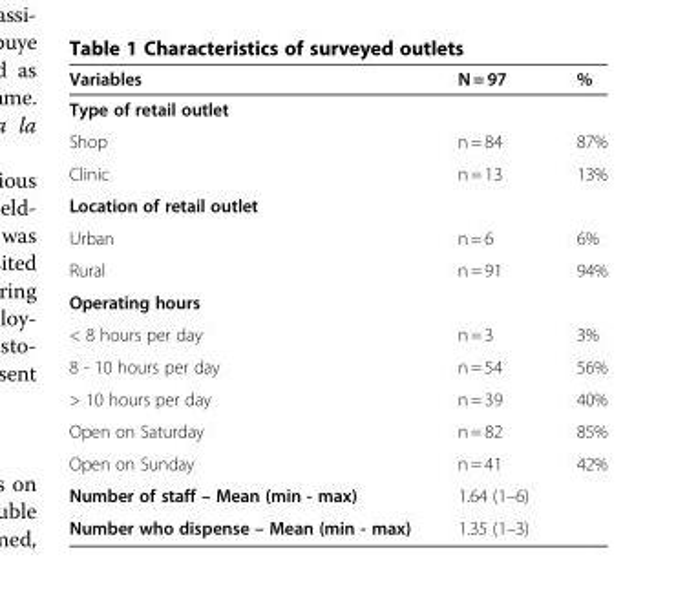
<table><thead><tr><td>Variables</td><td>N = 97</td><td>%</td></tr></thead><tbody><tr><td colspan="3">Type of retail outlet</td></tr><tr><td>Shop</td><td>n = 84</td><td>87%</td></tr><tr><td>Clinic</td><td>n = 13</td><td>13%</td></tr><tr><td colspan="3">Location of retail outlet</td></tr><tr><td>Urban</td><td>n = 6</td><td>6%</td></tr><tr><td>Rural</td><td>n = 91</td><td>94%</td></tr><tr><td colspan="3">Operating hours</td></tr><tr><td>&lt; 8 hours per day</td><td>n = 3</td><td>3%</td></tr><tr><td>8 - 10 hours per day</td><td>n = 54</td><td>56%</td></tr><tr><td>&gt; 10 hours per day</td><td>n = 39</td><td>40%</td></tr><tr><td>Open on Saturday</td><td>n = 82</td><td>85%</td></tr><tr><td>Open on Sunday</td><td>n = 41</td><td>42%</td></tr><tr><td>Number of staff – Mean (min - max)</td><td>1.64 (1–6)</td><td></td></tr><tr><td>Number who dispense – Mean (min - max)</td><td>1.35 (1–3)</td><td></td></tr></tbody></table>